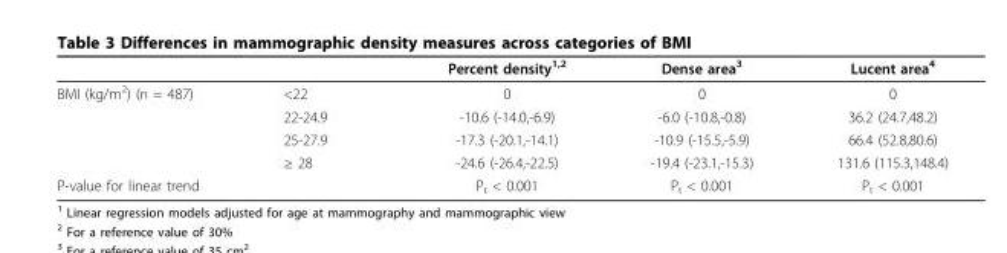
<table><thead><tr><td></td><td></td><td>Percent density<sup>1,2</sup></td><td>Dense area<sup>3</sup></td><td>Lucent area<sup>4</sup></td></tr></thead><tbody><tr><td rowspan="4">BMI (kg/m<sup>2</sup>) (n = 487)</td><td>&lt;22</td><td>0</td><td>0</td><td>0</td></tr><tr><td>22-24.9</td><td>-10.6 (-14.0,-6.9)</td><td>-6.0 (-10.8,-0.8)</td><td>36.2 (24.7,48.2)</td></tr><tr><td>25-27.9</td><td>-17.3 (-20.1,-14.1)</td><td>-10.9 (-15.5,-5.9)</td><td>66.4 (52.8,80.6)</td></tr><tr><td>≥ 28</td><td>-24.6 (-26.4,-22.5)</td><td>-19.4 (-23.1,-15.3)</td><td>131.6 (115.3,148.4)</td></tr><tr><td>P-value for linear trend</td><td></td><td>P<sub>t</sub> &lt; 0.001</td><td>P<sub>t</sub> &lt; 0.001</td><td>P<sub>t</sub> &lt; 0.001</td></tr></tbody></table>